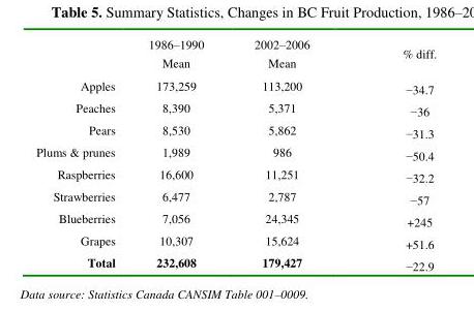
<table><thead><tr><td></td><td>1986–1990 Mean</td><td>2002–2006 Mean</td><td>% diff.</td></tr></thead><tbody><tr><td>Apples</td><td>173,259</td><td>113,200</td><td>−34.7</td></tr><tr><td>Peaches</td><td>8,390</td><td>5,371</td><td>−36</td></tr><tr><td>Pears</td><td>8,530</td><td>5,862</td><td>−31.3</td></tr><tr><td>Plums &amp; prunes</td><td>1,989</td><td>986</td><td>−50.4</td></tr><tr><td>Raspberries</td><td>16,600</td><td>11,251</td><td>−32.2</td></tr><tr><td>Strawberries</td><td>6,477</td><td>2,787</td><td>−57</td></tr><tr><td>Blueberries</td><td>7,056</td><td>24,345</td><td>+245</td></tr><tr><td>Grapes</td><td>10,307</td><td>15,624</td><td>+51.6</td></tr><tr><td>Total</td><td>232,608</td><td>179,427</td><td>−22.9</td></tr></tbody></table>